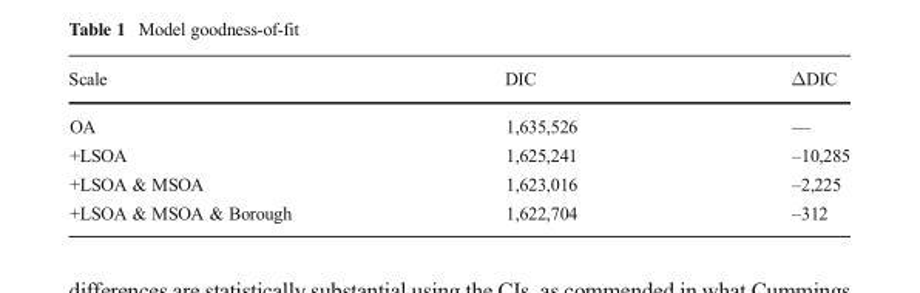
<table><thead><tr><td>Scale</td><td>DIC</td><td>ΔDIC</td></tr></thead><tbody><tr><td>OA</td><td>1,635,526</td><td>––</td></tr><tr><td>+LSOA</td><td>1,625,241</td><td>–10,285</td></tr><tr><td>+LSOA &amp; MSOA</td><td>1,623,016</td><td>–2,225</td></tr><tr><td>+LSOA &amp; MSOA &amp; Borough</td><td>1,622,704</td><td>–312</td></tr></tbody></table>